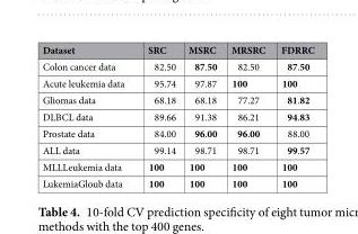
<table><thead><tr><td>Dataset</td><td>SRC</td><td>MSRC</td><td>MRSRC</td><td>FDRRC</td></tr></thead><tbody><tr><td>Colon cancer data</td><td>82.50</td><td>87.50</td><td>82.50</td><td>87.50</td></tr><tr><td>Acute leukemia data</td><td>95.74</td><td>97.87</td><td>100</td><td>100</td></tr><tr><td>Gliomas data</td><td>68.18</td><td>68.18</td><td>77.27</td><td>81.82</td></tr><tr><td>DLBCL data</td><td>89.66</td><td>91.38</td><td>86.21</td><td>94.83</td></tr><tr><td>Prostate data</td><td>84.00</td><td>96.00</td><td>96.00</td><td>88.00</td></tr><tr><td>ALL data</td><td>99.14</td><td>98.71</td><td>98.71</td><td>99.57</td></tr><tr><td>MLLLeukemia data</td><td>100</td><td>100</td><td>100</td><td>100</td></tr><tr><td>LukemiaGloub data</td><td>100</td><td>100</td><td>100</td><td>100</td></tr></tbody></table>